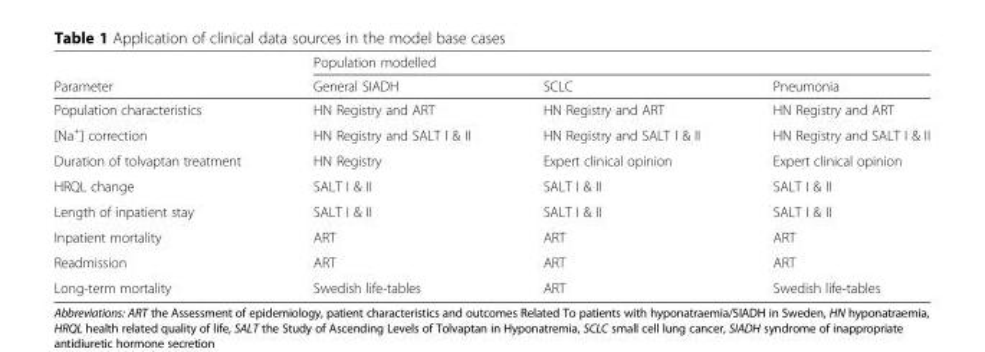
<table><thead><tr><td rowspan="2">Parameter</td><td colspan="3">Population modelled</td></tr><tr><td>General SIADH</td><td>SCLC</td><td>Pneumonia</td></tr></thead><tbody><tr><td>Population characteristics</td><td>HN Registry and ART</td><td>HN Registry and ART</td><td>HN Registry and ART</td></tr><tr><td>[Na<sup>+</sup>] correction</td><td>HN Registry and SALT I &amp; II</td><td>HN Registry and SALT I &amp; II</td><td>HN Registry and SALT I &amp; II</td></tr><tr><td>Duration of tolvaptan treatment</td><td>HN Registry</td><td>Expert clinical opinion</td><td>Expert clinical opinion</td></tr><tr><td>HRQL change</td><td>SALT I &amp; II</td><td>SALT I &amp; II</td><td>SALT I &amp; II</td></tr><tr><td>Length of inpatient stay</td><td>SALT I &amp; II</td><td>SALT I &amp; II</td><td>SALT I &amp; II</td></tr><tr><td>Inpatient mortality</td><td>ART</td><td>ART</td><td>ART</td></tr><tr><td>Readmission</td><td>ART</td><td>ART</td><td>ART</td></tr><tr><td>Long-term mortality</td><td>Swedish life-tables</td><td>ART</td><td>Swedish life-tables</td></tr></tbody></table>